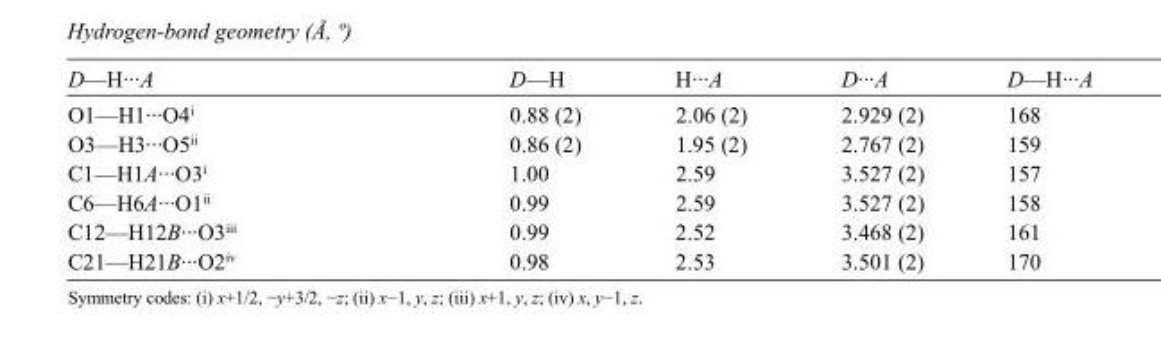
<table><tbody><tr><td>D—H···A</td><td>D—H</td><td>H···A</td><td>D···A</td><td>D—H···A</td></tr><tr><td>O1—H1···O4<sup>i</sup></td><td>0.88 (2)</td><td>2.06 (2)</td><td>2.929 (2)</td><td>168</td></tr><tr><td>O3—H3···O5<sup>ii</sup></td><td>0.86 (2)</td><td>1.95 (2)</td><td>2.767 (2)</td><td>159</td></tr><tr><td>C1—H1A···O3<sup>i</sup></td><td>1.00</td><td>2.59</td><td>3.527 (2)</td><td>157</td></tr><tr><td>C6—H6A···O1<sup>ii</sup></td><td>0.99</td><td>2.59</td><td>3.527 (2)</td><td>158</td></tr><tr><td>C12—H12B···O3<sup>iii</sup></td><td>0.99</td><td>2.52</td><td>3.468 (2)</td><td>161</td></tr><tr><td>C21—H21B···O2<sup>iv</sup></td><td>0.98</td><td>2.53</td><td>3.501 (2)</td><td>170</td></tr></tbody></table>